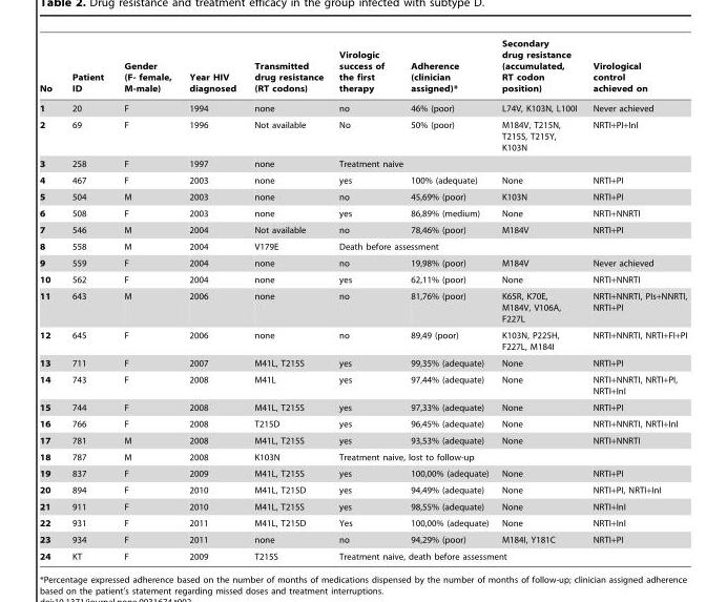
<table><thead><tr><td>No</td><td>Patient ID</td><td>Gender (F- female, M-male)</td><td>Year HIV diagnosed</td><td>Transmitted drug resistance (RT codons)</td><td>Virologic success of the first therapy</td><td>Adherence (clinician assigned)*</td><td>Secondary drug resistance (accumulated, RT codon position)</td><td>Virological control achieved on</td></tr></thead><tbody><tr><td>1</td><td>20</td><td>F</td><td>1994</td><td>none</td><td>no</td><td>46% (poor)</td><td>L74V, K103N, L100I</td><td>Never achieved</td></tr><tr><td>2</td><td>69</td><td>F</td><td>1996</td><td>Not available</td><td>No</td><td>50% (poor)</td><td>M184V, T215N, T215S, T215Y, K103N</td><td>NRTI+PI+InI</td></tr><tr><td>3</td><td>258</td><td>F</td><td>1997</td><td>none</td><td colspan="4">Treatment naive</td></tr><tr><td>4</td><td>467</td><td>F</td><td>2003</td><td>none</td><td>yes</td><td>100% (adequate)</td><td>None</td><td>NRTI+PI</td></tr><tr><td>5</td><td>504</td><td>M</td><td>2003</td><td>none</td><td>no</td><td>45,69% (poor)</td><td>K103N</td><td>NRTI+PI</td></tr><tr><td>6</td><td>508</td><td>F</td><td>2003</td><td>none</td><td>yes</td><td>86,89% (medium)</td><td>None</td><td>NRTI+NNRTI</td></tr><tr><td>7</td><td>546</td><td>M</td><td>2004</td><td>Not available</td><td>no</td><td>78,46% (poor)</td><td>M184V</td><td>NRTI+PI</td></tr><tr><td>8</td><td>558</td><td>M</td><td>2004</td><td>V179E</td><td colspan="4">Death before assessment</td></tr><tr><td>9</td><td>559</td><td>F</td><td>2004</td><td>none</td><td>no</td><td>19,98% (poor)</td><td>M184V</td><td>Never achieved</td></tr><tr><td>10</td><td>562</td><td>F</td><td>2004</td><td>none</td><td>yes</td><td>62,11% (poor)</td><td>None</td><td>NRTI+NNRTI</td></tr><tr><td>11</td><td>643</td><td>M</td><td>2006</td><td>none</td><td>no</td><td>81,76% (poor)</td><td>K65R, K70E, M184V, V106A, F227L</td><td>NRTI+NNRTI, PIs+NNRTI, NRTI+PI</td></tr><tr><td>12</td><td>645</td><td>F</td><td>2006</td><td>none</td><td>no</td><td>89,49 (poor)</td><td>K103N, P225H, F227L, M184I</td><td>NRTI+NNRTI, NRTI+FI+PI</td></tr><tr><td>13</td><td>711</td><td>F</td><td>2007</td><td>M41L, T215S</td><td>yes</td><td>99,35% (adequate)</td><td>None</td><td>NRTI+PI</td></tr><tr><td>14</td><td>743</td><td>F</td><td>2008</td><td>M41L</td><td>yes</td><td>97,44% (adequate)</td><td>None</td><td>NRTI+NNRTI, NRTI+PI, NRTI+InI</td></tr><tr><td>15</td><td>744</td><td>F</td><td>2008</td><td>M41L, T215S</td><td>yes</td><td>97,33% (adequate)</td><td>None</td><td>NRTI+PI</td></tr><tr><td>16</td><td>766</td><td>F</td><td>2008</td><td>T215D</td><td>yes</td><td>96,45% (adequate)</td><td>None</td><td>NRTI+NNRTI, NRTI+InI</td></tr><tr><td>17</td><td>781</td><td>M</td><td>2008</td><td>M41L, T215S</td><td>yes</td><td>93,53% (adequate)</td><td>None</td><td>NRTI+NNRTI</td></tr><tr><td>18</td><td>787</td><td>M</td><td>2008</td><td>K103N</td><td colspan="4">Treatment naive, lost to follow-up</td></tr><tr><td>19</td><td>837</td><td>F</td><td>2009</td><td>M41L, T215S</td><td>yes</td><td>100,00% (adequate)</td><td>None</td><td>NRTI+PI</td></tr><tr><td>20</td><td>894</td><td>F</td><td>2010</td><td>M41L, T215D</td><td>yes</td><td>94,49% (adequate)</td><td>None</td><td>NRTI+PI, NRTI+InI</td></tr><tr><td>21</td><td>911</td><td>F</td><td>2010</td><td>M41L, T215S</td><td>yes</td><td>98,55% (adequate)</td><td>None</td><td>NRTI+InI</td></tr><tr><td>22</td><td>931</td><td>F</td><td>2011</td><td>M41L, T215D</td><td>Yes</td><td>100,00% (adequate)</td><td>None</td><td>NRTI+InI</td></tr><tr><td>23</td><td>934</td><td>F</td><td>2011</td><td>none</td><td>no</td><td>94,29% (poor)</td><td>M184I, Y181C</td><td>NRTI+PI</td></tr><tr><td>24</td><td>KT</td><td>F</td><td>2009</td><td>T215S</td><td colspan="4">Treatment naive, death before assessment</td></tr></tbody></table>